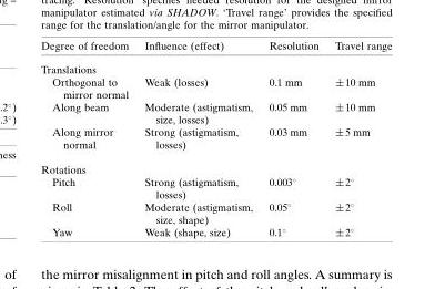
<table><thead><tr><td>Degree of freedom</td><td>Influence (effect)</td><td>Resolution</td><td>Travel range</td></tr></thead><tbody><tr><td colspan="4">Translations</td></tr><tr><td>Orthogonal to mirror normal</td><td>Weak (losses)</td><td>0.1 mm</td><td>±10 mm</td></tr><tr><td>Along beam</td><td>Moderate (astigmatism, size, losses)</td><td>0.05 mm</td><td>±10 mm</td></tr><tr><td>Along mirror normal</td><td>Strong (astigmatism, losses)</td><td>0.03 mm</td><td>±5 mm</td></tr><tr><td colspan="4">Rotations</td></tr><tr><td>Pitch</td><td>Strong (astigmatism, losses)</td><td>0.003°</td><td>±2°</td></tr><tr><td>Roll</td><td>Moderate (astigmatism, size, shape)</td><td>0.05°</td><td>±2°</td></tr><tr><td>Yaw</td><td>Weak (shape, size)</td><td>0.1°</td><td>±2°</td></tr></tbody></table>